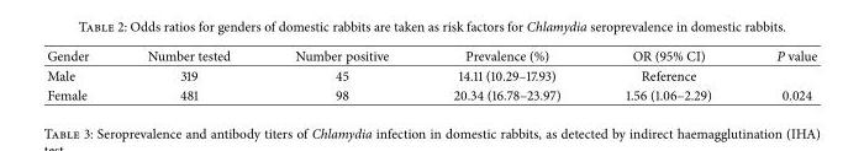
<table><tbody><tr><td>Gender</td><td>Number tested</td><td>Number positive</td><td>Prevalence (%)</td><td>OR (95% CI)</td><td>P value</td></tr><tr><td>Male</td><td>319</td><td>45</td><td>14.11 (10.29–17.93)</td><td>Reference</td><td></td></tr><tr><td>Female</td><td>481</td><td>98</td><td>20.34 (16.78–23.97)</td><td>1.56 (1.06–2.29)</td><td>0.024</td></tr></tbody></table>